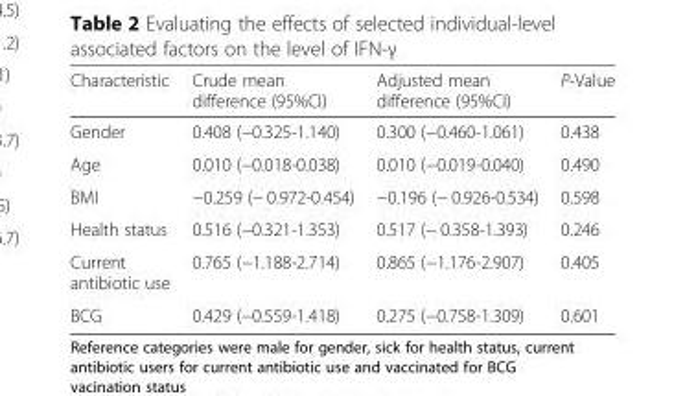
<table><thead><tr><td>Characteristic</td><td>Crude mean difference (95%CI)</td><td>Adjusted mean difference (95%CI)</td><td>P-Value</td></tr></thead><tbody><tr><td>Gender</td><td>0.408 (−0.325-1.140)</td><td>0.300 (−0.460-1.061)</td><td>0.438</td></tr><tr><td>Age</td><td>0.010 (−0.018-0.038)</td><td>0.010 (−0.019-0.040)</td><td>0.490</td></tr><tr><td>BMI</td><td>−0.259 (− 0.972-0.454)</td><td>−0.196 (− 0.926-0.534)</td><td>0.598</td></tr><tr><td>Health status</td><td>0.516 (−0.321-1.353)</td><td>0.517 (− 0.358-1.393)</td><td>0.246</td></tr><tr><td>Current antibiotic use</td><td>0.765 (−1.188-2.714)</td><td>0.865 (−1.176-2.907)</td><td>0.405</td></tr><tr><td>BCG</td><td>0.429 (−0.559-1.418)</td><td>0.275 (−0.758-1.309)</td><td>0.601</td></tr></tbody></table>